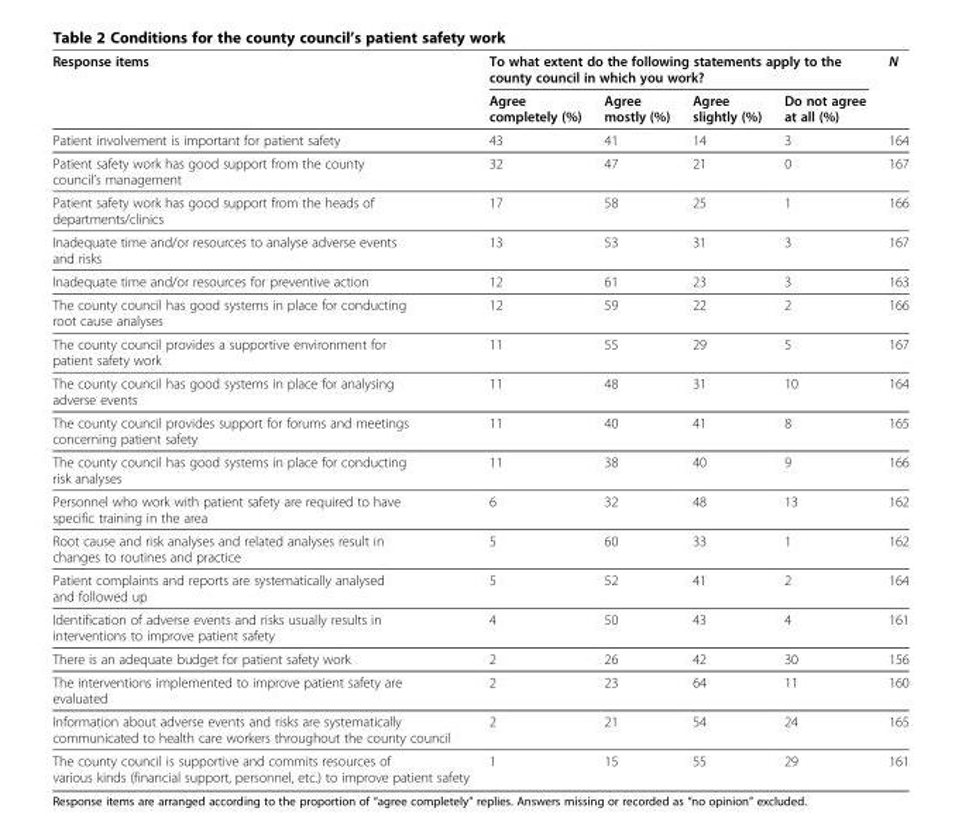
<table><thead><tr><td rowspan="2">Response items</td><td colspan="4">To what extent do the following statements apply to the county council in which you work?</td><td rowspan="2">N</td></tr><tr><td>Agree completely (%)</td><td>Agree mostly (%)</td><td>Agree slightly (%)</td><td>Do not agree at all (%)</td></tr></thead><tbody><tr><td>Patient involvement is important for patient safety</td><td>43</td><td>41</td><td>14</td><td>3</td><td>164</td></tr><tr><td>Patient safety work has good support from the county council’s management</td><td>32</td><td>47</td><td>21</td><td>0</td><td>167</td></tr><tr><td>Patient safety work has good support from the heads of departments/clinics</td><td>17</td><td>58</td><td>25</td><td>1</td><td>166</td></tr><tr><td>Inadequate time and/or resources to analyse adverse events and risks</td><td>13</td><td>53</td><td>31</td><td>3</td><td>167</td></tr><tr><td>Inadequate time and/or resources for preventive action</td><td>12</td><td>61</td><td>23</td><td>3</td><td>163</td></tr><tr><td>The county council has good systems in place for conducting root cause analyses</td><td>12</td><td>59</td><td>22</td><td>2</td><td>166</td></tr><tr><td>The county council provides a supportive environment for patient safety work</td><td>11</td><td>55</td><td>29</td><td>5</td><td>167</td></tr><tr><td>The county council has good systems in place for analysing adverse events</td><td>11</td><td>48</td><td>31</td><td>10</td><td>164</td></tr><tr><td>The county council provides support for forums and meetings concerning patient safety</td><td>11</td><td>40</td><td>41</td><td>8</td><td>165</td></tr><tr><td>The county council has good systems in place for conducting risk analyses</td><td>11</td><td>38</td><td>40</td><td>9</td><td>166</td></tr><tr><td>Personnel who work with patient safety are required to have specific training in the area</td><td>6</td><td>32</td><td>48</td><td>13</td><td>162</td></tr><tr><td>Root cause and risk analyses and related analyses result in changes to routines and practice</td><td>5</td><td>60</td><td>33</td><td>1</td><td>162</td></tr><tr><td>Patient complaints and reports are systematically analysed and followed up</td><td>5</td><td>52</td><td>41</td><td>2</td><td>164</td></tr><tr><td>Identification of adverse events and risks usually results in interventions to improve patient safety</td><td>4</td><td>50</td><td>43</td><td>4</td><td>161</td></tr><tr><td>There is an adequate budget for patient safety work</td><td>2</td><td>26</td><td>42</td><td>30</td><td>156</td></tr><tr><td>The interventions implemented to improve patient safety are evaluated</td><td>2</td><td>23</td><td>64</td><td>11</td><td>160</td></tr><tr><td>Information about adverse events and risks are systematically communicated to health care workers throughout the county council</td><td>2</td><td>21</td><td>54</td><td>24</td><td>165</td></tr><tr><td>The county council is supportive and commits resources of various kinds (financial support, personnel, etc.) to improve patient safety</td><td>1</td><td>15</td><td>55</td><td>29</td><td>161</td></tr></tbody></table>